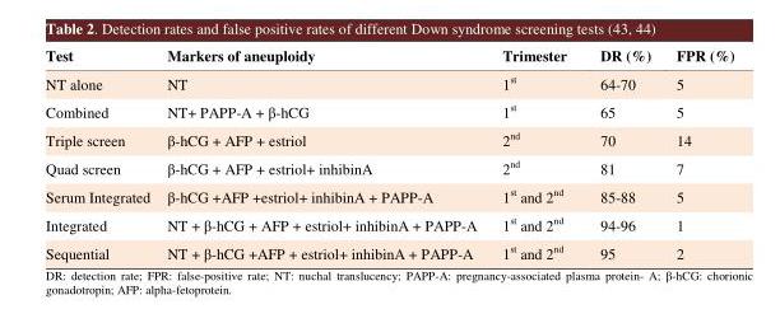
<table><thead><tr><td>Test</td><td>Markers of aneuploidy</td><td>Trimester</td><td>DR (%)</td><td>FPR (%)</td></tr></thead><tbody><tr><td>NT alone</td><td>NT</td><td>1<sup>st</sup></td><td>64-70</td><td>5</td></tr><tr><td>Combined</td><td>NT+ PAPP-A + β-hCG</td><td>1<sup>st</sup></td><td>65</td><td>5</td></tr><tr><td>Triple screen</td><td>β-hCG + AFP + estriol</td><td>2<sup>nd</sup></td><td>70</td><td>14</td></tr><tr><td>Quad screen</td><td>β-hCG + AFP + estriol+ inhibinA</td><td>2<sup>nd</sup></td><td>81</td><td>7</td></tr><tr><td>Serum Integrated</td><td>β-hCG +AFP +estriol+ inhibinA + PAPP-A</td><td>1<sup>st</sup> and 2<sup>nd</sup></td><td>85-88</td><td>5</td></tr><tr><td>Integrated</td><td>NT + β-hCG + AFP + estriol+ inhibinA + PAPP-A</td><td>1<sup>st</sup> and 2<sup>nd</sup></td><td>94-96</td><td>1</td></tr><tr><td>Sequential</td><td>NT + β-hCG +AFP + estriol+ inhibinA + PAPP-A</td><td>1<sup>st</sup> and 2<sup>nd</sup></td><td>95</td><td>2</td></tr></tbody></table>